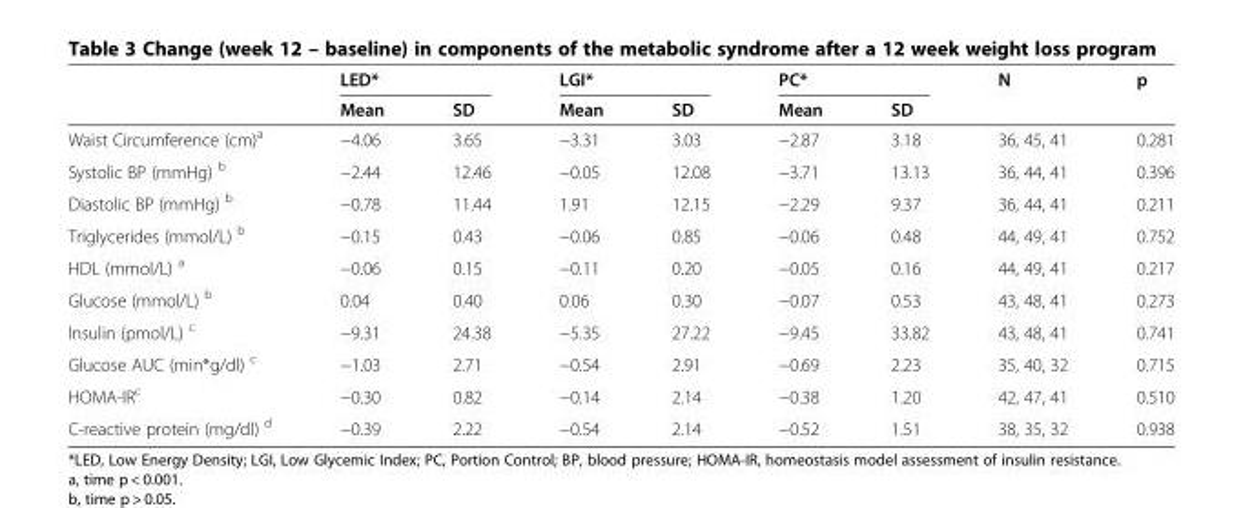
<table><thead><tr><td rowspan="2"></td><td rowspan="2">LED* Mean</td><td rowspan="2">SD</td><td rowspan="2">LGI* Mean</td><td rowspan="2">SD</td><td rowspan="2">PC* Mean</td><td rowspan="2">SD</td><td rowspan="2">N</td><td rowspan="2">p</td></tr><tr></tr></thead><tbody><tr><td>Waist Circumference (cm)<sup>a</sup></td><td>−4.06</td><td>3.65</td><td>−3.31</td><td>3.03</td><td>−2.87</td><td>3.18</td><td>36, 45, 41</td><td>0.281</td></tr><tr><td>Systolic BP (mmHg) <sup>b</sup></td><td>−2.44</td><td>12.46</td><td>−0.05</td><td>12.08</td><td>−3.71</td><td>13.13</td><td>36, 44, 41</td><td>0.396</td></tr><tr><td>Diastolic BP (mmHg) <sup>b</sup></td><td>−0.78</td><td>11.44</td><td>1.91</td><td>12.15</td><td>−2.29</td><td>9.37</td><td>36, 44, 41</td><td>0.211</td></tr><tr><td>Triglycerides (mmol/L) <sup>b</sup></td><td>−0.15</td><td>0.43</td><td>−0.06</td><td>0.85</td><td>−0.06</td><td>0.48</td><td>44, 49, 41</td><td>0.752</td></tr><tr><td>HDL (mmol/L) <sup>a</sup></td><td>−0.06</td><td>0.15</td><td>−0.11</td><td>0.20</td><td>−0.05</td><td>0.16</td><td>44, 49, 41</td><td>0.217</td></tr><tr><td>Glucose (mmol/L) <sup>b</sup></td><td>0.04</td><td>0.40</td><td>0.06</td><td>0.30</td><td>−0.07</td><td>0.53</td><td>43, 48, 41</td><td>0.273</td></tr><tr><td>Insulin (pmol/L) <sup>c</sup></td><td>−9.31</td><td>24.38</td><td>−5.35</td><td>27.22</td><td>−9.45</td><td>33.82</td><td>43, 48, 41</td><td>0.741</td></tr><tr><td>Glucose AUC (min*g/dl) <sup>c</sup></td><td>−1.03</td><td>2.71</td><td>−0.54</td><td>2.91</td><td>−0.69</td><td>2.23</td><td>35, 40, 32</td><td>0.715</td></tr><tr><td>HOMA-IR<sup>c</sup></td><td>−0.30</td><td>0.82</td><td>−0.14</td><td>2.14</td><td>−0.38</td><td>1.20</td><td>42, 47, 41</td><td>0.510</td></tr><tr><td>C-reactive protein (mg/dl) <sup>d</sup></td><td>−0.39</td><td>2.22</td><td>−0.54</td><td>2.14</td><td>−0.52</td><td>1.51</td><td>38, 35, 32</td><td>0.938</td></tr></tbody></table>